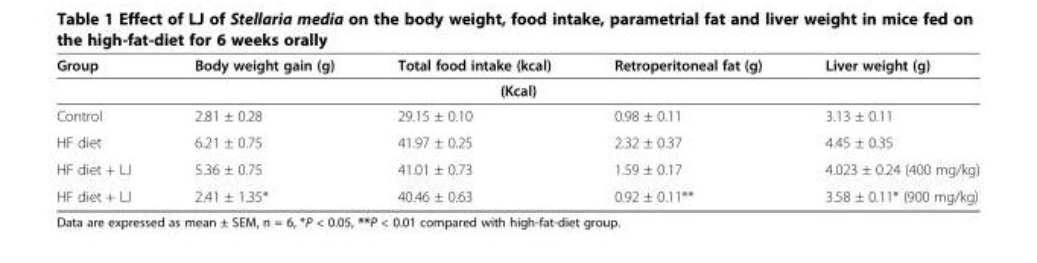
<table><thead><tr><td>Group</td><td>Body weight gain (g)</td><td>Total food intake (kcal)</td><td>Retroperitoneal fat (g)</td><td>Liver weight (g)</td></tr><tr><td colspan="5">(Kcal)</td></tr></thead><tbody><tr><td>Control</td><td>2.81 ± 0.28</td><td>29.15 ± 0.10</td><td>0.98 ± 0.11</td><td>3.13 ± 0.11</td></tr><tr><td>HF diet</td><td>6.21 ± 0.75</td><td>41.97 ± 0.25</td><td>2.32 ± 0.37</td><td>4.45 ± 0.35</td></tr><tr><td>HF diet + LJ</td><td>5.36 ± 0.75</td><td>41.01 ± 0.73</td><td>1.59 ± 0.17</td><td>4.023 ± 0.24 (400 mg/kg)</td></tr><tr><td>HF diet + LJ</td><td>2.41 ± 1.35*</td><td>40.46 ± 0.63</td><td>0.92 ± 0.11**</td><td>3.58 ± 0.11* (900 mg/kg)</td></tr></tbody></table>